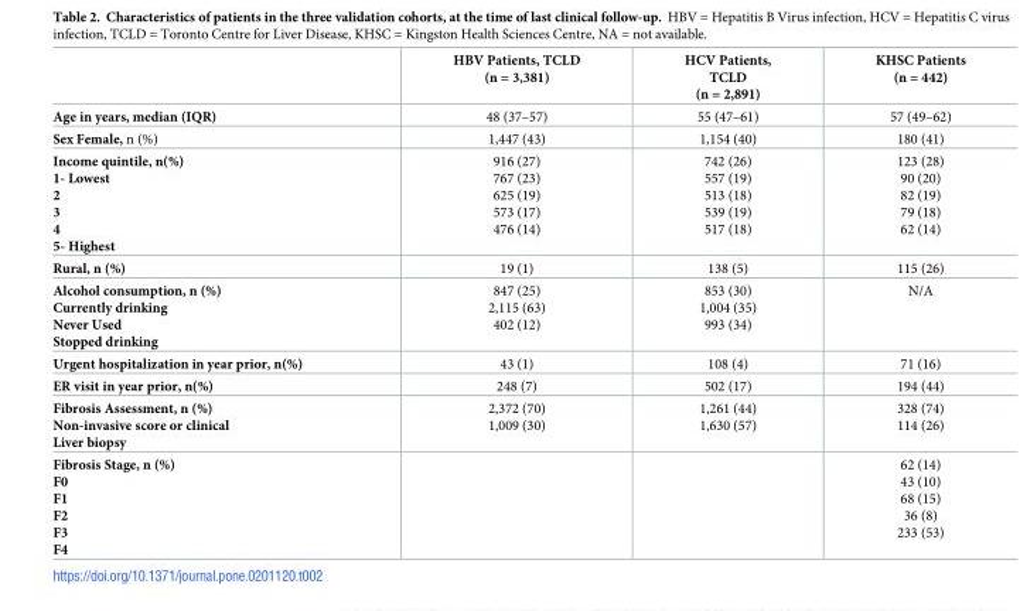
<table><thead><tr><td></td><td>HBV Patients, TCLD (n = 3,381)</td><td>HCV Patients, TCLD (n = 2,891)</td><td>KHSC Patients (n = 442)</td></tr></thead><tbody><tr><td>Age in years, median (IQR)</td><td>48 (37–57)</td><td>55 (47–61)</td><td>57 (49–62)</td></tr><tr><td>Sex Female, n (%)</td><td>1,447 (43)</td><td>1,154 (40)</td><td>180 (41)</td></tr><tr><td>Income quintile, n(%) 1- Lowest 2 3 4 5- Highest</td><td>916 (27) 767 (23) 625 (19) 573 (17) 476 (14)</td><td>742 (26) 557 (19) 513 (18) 539 (19) 517 (18)</td><td>123 (28) 90 (20) 82 (19) 79 (18) 62 (14)</td></tr><tr><td>Rural, n (%)</td><td>19 (1)</td><td>138 (5)</td><td>115 (26)</td></tr><tr><td>Alcohol consumption, n (%) Currently drinking Never Used Stopped drinking</td><td>847 (25) 2,115 (63) 402 (12)</td><td>853 (30) 1,004 (35) 993 (34)</td><td>N/A</td></tr><tr><td>Urgent hospitalization in year prior, n(%)</td><td>43 (1)</td><td>108 (4)</td><td>71 (16)</td></tr><tr><td>ER visit in year prior, n(%)</td><td>248 (7)</td><td>502 (17)</td><td>194 (44)</td></tr><tr><td>Fibrosis Assessment, n (%) Non-invasive score or clinical Liver biopsy</td><td>2,372 (70) 1,009 (30)</td><td>1,261 (44) 1,630 (57)</td><td>328 (74) 114 (26)</td></tr><tr><td>Fibrosis Stage, n (%) F0 F1 F2 F3 F4</td><td></td><td></td><td>62 (14) 43 (10) 68 (15) 36 (8) 233 (53)</td></tr></tbody></table>